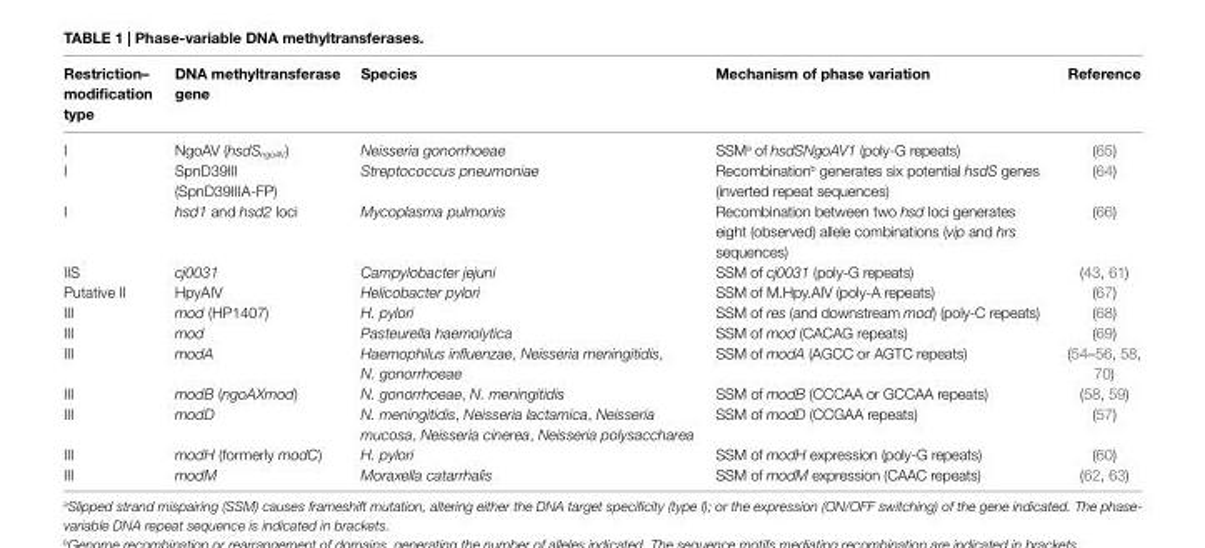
<table><thead><tr><td>Restriction– modification type</td><td>DNA methyltransferase gene</td><td>Species</td><td>Mechanism of phase variation</td><td>Reference</td></tr></thead><tbody><tr><td>I</td><td>NgoAV (hsdS<sub>ngoAV</sub>)</td><td>Neisseria gonorrhoeae</td><td>SSM<sup>a</sup> of hsdSNgoAV1 (poly-G repeats)</td><td>(65)</td></tr><tr><td>I</td><td>SpnD39III (SpnD39IIIA-FP)</td><td>Streptococcus pneumoniae</td><td>Recombination<sup>b</sup> generates six potential hsdS genes (inverted repeat sequences)</td><td>(64)</td></tr><tr><td>I</td><td>hsd1 and hsd2 loci</td><td>Mycoplasma pulmonis</td><td>Recombination between two hsd loci generates eight (observed) allele combinations (vip and hrs sequences)</td><td>(66)</td></tr><tr><td>IIS</td><td>cj0031</td><td>Campylobacter jejuni</td><td>SSM of cj0031 (poly-G repeats)</td><td>(43, 61)</td></tr><tr><td>Putative II</td><td>HpyAIV</td><td>Helicobacter pylori</td><td>SSM of M.Hpy.AIV (poly-A repeats)</td><td>(67)</td></tr><tr><td>III</td><td>mod (HP1407)</td><td>H. pylori</td><td>SSM of res (and downstream mod) (poly-C repeats)</td><td>(68)</td></tr><tr><td>III</td><td>mod</td><td>Pasteurella haemolytica</td><td>SSM of mod (CACAG repeats)</td><td>(69)</td></tr><tr><td>III</td><td>modA</td><td>Haemophilus influenzae, Neisseria meningitidis, N. gonorrhoeae</td><td>SSM of modA (AGCC or AGTC repeats)</td><td>(54–56, 58, 70)</td></tr><tr><td>III</td><td>modB (ngoAXmod)</td><td>N. gonorrhoeae, N. meningitidis</td><td>SSM of modB (CCCAA or GCCAA repeats)</td><td>(58, 59)</td></tr><tr><td>III</td><td>modD</td><td>N. meningitidis, Neisseria lactamica, Neisseria mucosa, Neisseria cinerea, Neisseria polysaccharea</td><td>SSM of modD (CCGAA repeats)</td><td>(57)</td></tr><tr><td>III</td><td>modH (formerly modC)</td><td>H. pylori</td><td>SSM of modH expression (poly-G repeats)</td><td>(60)</td></tr><tr><td>III</td><td>modM</td><td>Moraxella catarrhalis</td><td>SSM of modM expression (CAAC repeats)</td><td>(62, 63)</td></tr></tbody></table>